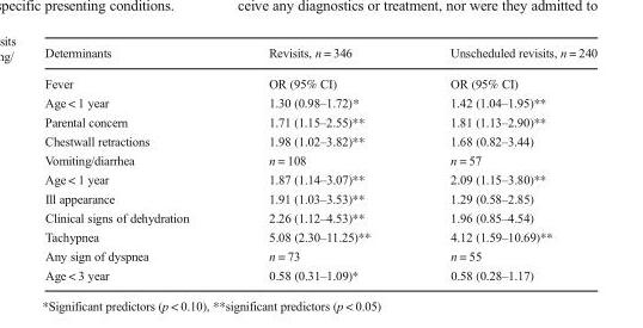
<table><thead><tr><td>Determinants</td><td>Revisits, n = 346</td><td>Unscheduled revisits, n = 240</td></tr></thead><tbody><tr><td>Fever</td><td>OR (95% CI)</td><td>OR (95% CI)</td></tr><tr><td>Age &lt; 1 year</td><td>1.30 (0.98–1.72)*</td><td>1.42 (1.04–1.95)**</td></tr><tr><td>Parental concern</td><td>1.71 (1.15–2.55)**</td><td>1.81 (1.13–2.90)**</td></tr><tr><td>Chestwall retractions</td><td>1.98 (1.02–3.82)**</td><td>1.68 (0.82–3.44)</td></tr><tr><td>Vomiting/diarrhea</td><td>n = 108</td><td>n = 57</td></tr><tr><td>Age &lt; 1 year</td><td>1.87 (1.14–3.07)**</td><td>2.09 (1.15–3.80)**</td></tr><tr><td>Ill appearance</td><td>1.91 (1.03–3.53)**</td><td>1.29 (0.58–2.85)</td></tr><tr><td>Clinical signs of dehydration</td><td>2.26 (1.12–4.53)**</td><td>1.96 (0.85–4.54)</td></tr><tr><td>Tachypnea</td><td>5.08 (2.30–11.25)**</td><td>4.12 (1.59–10.69)**</td></tr><tr><td>Any sign of dyspnea</td><td>n = 73</td><td>n = 55</td></tr><tr><td>Age &lt; 3 year</td><td>0.58 (0.31–1.09)*</td><td>0.58 (0.28–1.17)</td></tr></tbody></table>